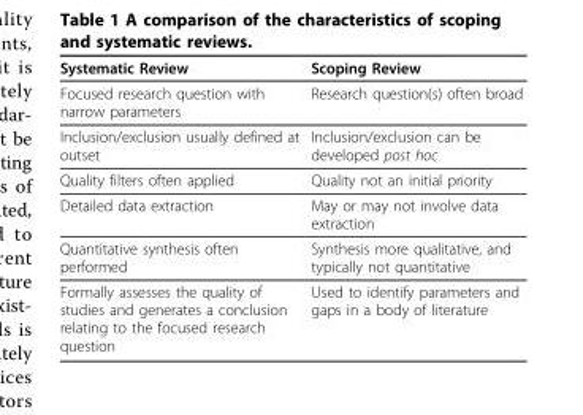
<table><thead><tr><td>Systematic Review</td><td>Scoping Review</td></tr></thead><tbody><tr><td>Focused research question with narrow parameters</td><td>Research question(s) often broad</td></tr><tr><td>Inclusion/exclusion usually defined at outset</td><td>Inclusion/exclusion can be developed post hoc</td></tr><tr><td>Quality filters often applied</td><td>Quality not an initial priority</td></tr><tr><td>Detailed data extraction</td><td>May or may not involve data extraction</td></tr><tr><td>Quantitative synthesis often performed</td><td>Synthesis more qualitative, and typically not quantitative</td></tr><tr><td>Formally assesses the quality of studies and generates a conclusion relating to the focused research question</td><td>Used to identify parameters and gaps in a body of literature</td></tr></tbody></table>